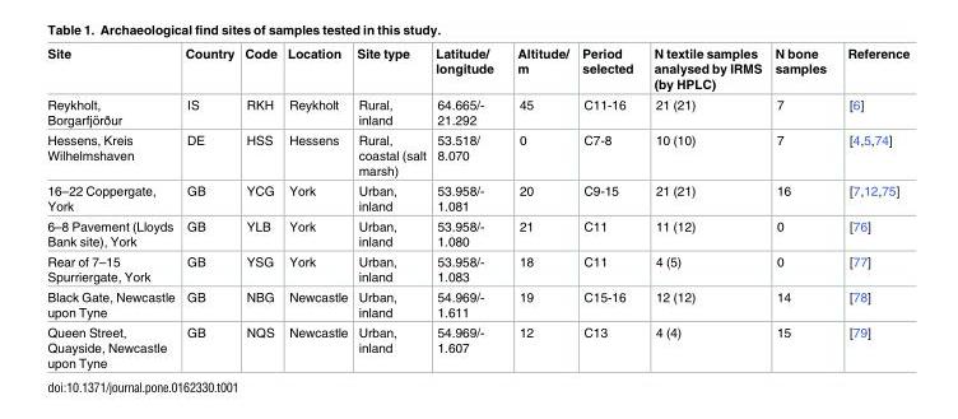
<table><thead><tr><td>Site</td><td>Country</td><td>Code</td><td>Location</td><td>Site type</td><td>Latitude/ longitude</td><td>Altitude/ m</td><td>Period selected</td><td>N textile samples analysed by IRMS (by HPLC)</td><td>N bone samples</td><td>Reference</td></tr></thead><tbody><tr><td>Reykholt, Borgarfjo¨rður</td><td>IS</td><td>RKH</td><td>Reykholt</td><td>Rural, inland</td><td>64.665/- 21.292</td><td>45</td><td>C11-16</td><td>21 (21)</td><td>7</td><td>[6]</td></tr><tr><td>Hessens, Kreis Wilhelmshaven</td><td>DE</td><td>HSS</td><td>Hessens</td><td>Rural, coastal (salt marsh)</td><td>53.518/ 8.070</td><td>0</td><td>C7-8</td><td>10 (10)</td><td>7</td><td>[4,5,74]</td></tr><tr><td>16–22 Coppergate, York</td><td>GB</td><td>YCG</td><td>York</td><td>Urban, inland</td><td>53.958/- 1.081</td><td>20</td><td>C9-15</td><td>21 (21)</td><td>16</td><td>[7,12,75]</td></tr><tr><td>6–8 Pavement (Lloyds Bank site), York</td><td>GB</td><td>YLB</td><td>York</td><td>Urban, inland</td><td>53.958/- 1.080</td><td>21</td><td>C11</td><td>11 (12)</td><td>0</td><td>[76]</td></tr><tr><td>Rear of 7–15 Spurriergate, York</td><td>GB</td><td>YSG</td><td>York</td><td>Urban, inland</td><td>53.958/- 1.083</td><td>18</td><td>C11</td><td>4 (5)</td><td>0</td><td>[77]</td></tr><tr><td>Black Gate, Newcastle upon Tyne</td><td>GB</td><td>NBG</td><td>Newcastle</td><td>Urban, inland</td><td>54.969/- 1.611</td><td>19</td><td>C15-16</td><td>12 (12)</td><td>14</td><td>[78]</td></tr><tr><td>Queen Street, Quayside, Newcastle upon Tyne</td><td>GB</td><td>NQS</td><td>Newcastle</td><td>Urban, inland</td><td>54.969/- 1.607</td><td>12</td><td>C13</td><td>4 (4)</td><td>15</td><td>[79]</td></tr></tbody></table>